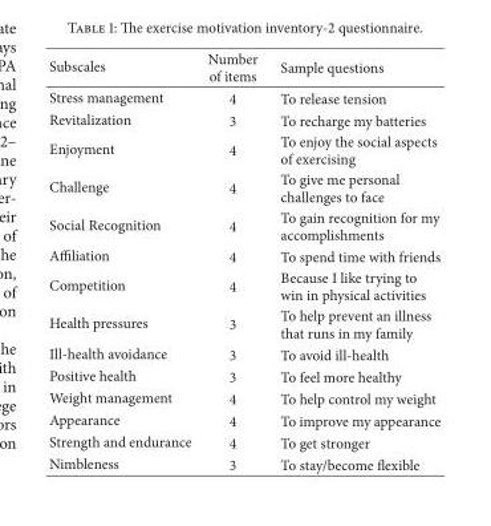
<table><thead><tr><td>Subscales</td><td>Number of items</td><td>Sample questions</td></tr></thead><tbody><tr><td>Stress management</td><td>4</td><td>To release tension</td></tr><tr><td>Revitalization</td><td>3</td><td>To recharge my batteries</td></tr><tr><td>Enjoyment</td><td>4</td><td>To enjoy the social aspects of exercising</td></tr><tr><td>Challenge</td><td>4</td><td>To give me personal challenges to face</td></tr><tr><td>Social Recognition</td><td>4</td><td>To gain recognition for my accomplishments</td></tr><tr><td>Affiliation</td><td>4</td><td>To spend time with friends</td></tr><tr><td>Competition</td><td>4</td><td>Because I like trying to win in physical activities</td></tr><tr><td>Health pressures</td><td>3</td><td>To help prevent an illness that runs in my family</td></tr><tr><td>Ill-health avoidance</td><td>3</td><td>To avoid ill-health</td></tr><tr><td>Positive health</td><td>3</td><td>To feel more healthy</td></tr><tr><td>Weight management</td><td>4</td><td>To help control my weight</td></tr><tr><td>Appearance</td><td>4</td><td>To improve my appearance</td></tr><tr><td>Strength and endurance</td><td>4</td><td>To get stronger</td></tr><tr><td>Nimbleness</td><td>3</td><td>To stay/become flexible</td></tr></tbody></table>